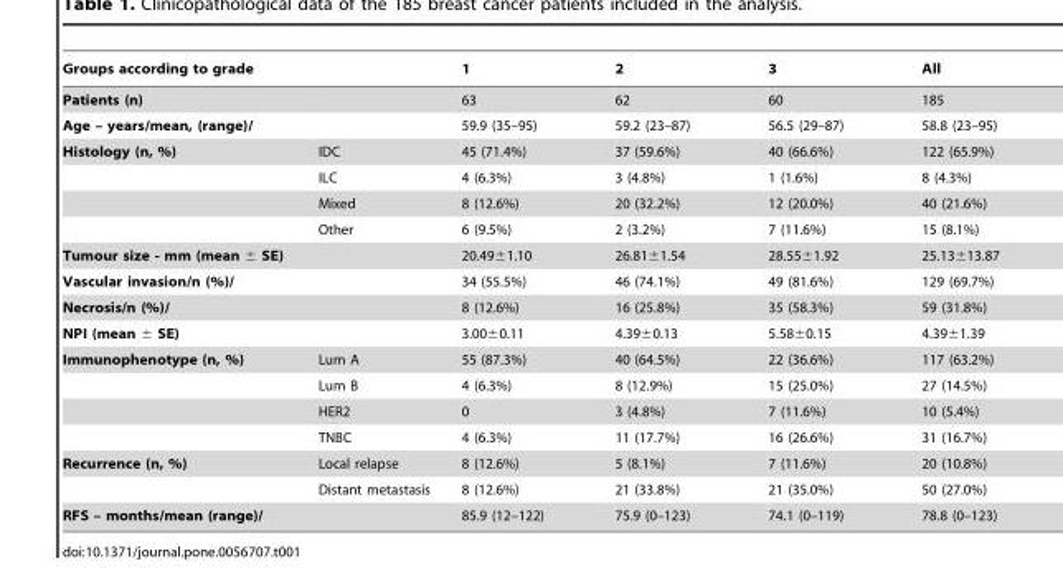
<table><thead><tr><td>Groups according to grade</td><td></td><td>1</td><td>2</td><td>3</td><td>All</td></tr></thead><tbody><tr><td colspan="2">Patients (n)</td><td>63</td><td>62</td><td>60</td><td>185</td></tr><tr><td colspan="2">Age – years/mean, (range)/</td><td>59.9 (35–95)</td><td>59.2 (23–87)</td><td>56.5 (29–87)</td><td>58.8 (23–95)</td></tr><tr><td rowspan="4">Histology (n, %)</td><td>IDC</td><td>45 (71.4%)</td><td>37 (59.6%)</td><td>40 (66.6%)</td><td>122 (65.9%)</td></tr><tr><td>ILC</td><td>4 (6.3%)</td><td>3 (4.8%)</td><td>1 (1.6%)</td><td>8 (4.3%)</td></tr><tr><td>Mixed</td><td>8 (12.6%)</td><td>20 (32.2%)</td><td>12 (20.0%)</td><td>40 (21.6%)</td></tr><tr><td>Other</td><td>6 (9.5%)</td><td>2 (3.2%)</td><td>7 (11.6%)</td><td>15 (8.1%)</td></tr><tr><td colspan="2">Tumour size - mm (mean ± SE)</td><td>20.49±1.10</td><td>26.81±1.54</td><td>28.55±1.92</td><td>25.13±13.87</td></tr><tr><td colspan="2">Vascular invasion/n (%)/</td><td>34 (55.5%)</td><td>46 (74.1%)</td><td>49 (81.6%)</td><td>129 (69.7%)</td></tr><tr><td colspan="2">Necrosis/n (%)/</td><td>8 (12.6%)</td><td>16 (25.8%)</td><td>35 (58.3%)</td><td>59 (31.8%)</td></tr><tr><td colspan="2">NPI (mean ± SE)</td><td>3.00±0.11</td><td>4.39±0.13</td><td>5.58±0.15</td><td>4.39±1.39</td></tr><tr><td rowspan="4">Immunophenotype (n, %)</td><td>Lum A</td><td>55 (87.3%)</td><td>40 (64.5%)</td><td>22 (36.6%)</td><td>117 (63.2%)</td></tr><tr><td>Lum B</td><td>4 (6.3%)</td><td>8 (12.9%)</td><td>15 (25.0%)</td><td>27 (14.5%)</td></tr><tr><td>HER2</td><td>0</td><td>3 (4.8%)</td><td>7 (11.6%)</td><td>10 (5.4%)</td></tr><tr><td>TNBC</td><td>4 (6.3%)</td><td>11 (17.7%)</td><td>16 (26.6%)</td><td>31 (16.7%)</td></tr><tr><td rowspan="2">Recurrence (n, %)</td><td>Local relapse</td><td>8 (12.6%)</td><td>5 (8.1%)</td><td>7 (11.6%)</td><td>20 (10.8%)</td></tr><tr><td>Distant metastasis</td><td>8 (12.6%)</td><td>21 (33.8%)</td><td>21 (35.0%)</td><td>50 (27.0%)</td></tr><tr><td colspan="2">RFS – months/mean (range)/</td><td>85.9 (12–122)</td><td>75.9 (0–123)</td><td>74.1 (0–119)</td><td>78.8 (0–123)</td></tr></tbody></table>